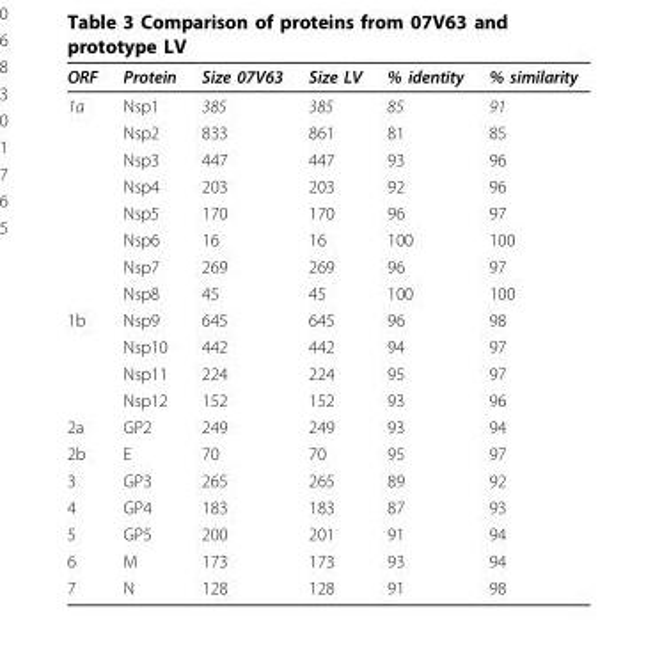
<table><thead><tr><td>ORF</td><td>Protein</td><td>Size 07V63</td><td>Size LV</td><td>% identity</td><td>% similarity</td></tr></thead><tbody><tr><td rowspan="8">1a</td><td>Nsp1</td><td>385</td><td>385</td><td>85</td><td>91</td></tr><tr><td>Nsp2</td><td>833</td><td>861</td><td>81</td><td>85</td></tr><tr><td>Nsp3</td><td>447</td><td>447</td><td>93</td><td>96</td></tr><tr><td>Nsp4</td><td>203</td><td>203</td><td>92</td><td>96</td></tr><tr><td>Nsp5</td><td>170</td><td>170</td><td>96</td><td>97</td></tr><tr><td>Nsp6</td><td>16</td><td>16</td><td>100</td><td>100</td></tr><tr><td>Nsp7</td><td>269</td><td>269</td><td>96</td><td>97</td></tr><tr><td>Nsp8</td><td>45</td><td>45</td><td>100</td><td>100</td></tr><tr><td rowspan="4">1b</td><td>Nsp9</td><td>645</td><td>645</td><td>96</td><td>98</td></tr><tr><td>Nsp10</td><td>442</td><td>442</td><td>94</td><td>97</td></tr><tr><td>Nsp11</td><td>224</td><td>224</td><td>95</td><td>97</td></tr><tr><td>Nsp12</td><td>152</td><td>152</td><td>93</td><td>96</td></tr><tr><td>2a</td><td>GP2</td><td>249</td><td>249</td><td>93</td><td>94</td></tr><tr><td>2b</td><td>E</td><td>70</td><td>70</td><td>95</td><td>97</td></tr><tr><td>3</td><td>GP3</td><td>265</td><td>265</td><td>89</td><td>92</td></tr><tr><td>4</td><td>GP4</td><td>183</td><td>183</td><td>87</td><td>93</td></tr><tr><td>5</td><td>GP5</td><td>200</td><td>201</td><td>91</td><td>94</td></tr><tr><td>6</td><td>M</td><td>173</td><td>173</td><td>93</td><td>94</td></tr><tr><td>7</td><td>N</td><td>128</td><td>128</td><td>91</td><td>98</td></tr></tbody></table>